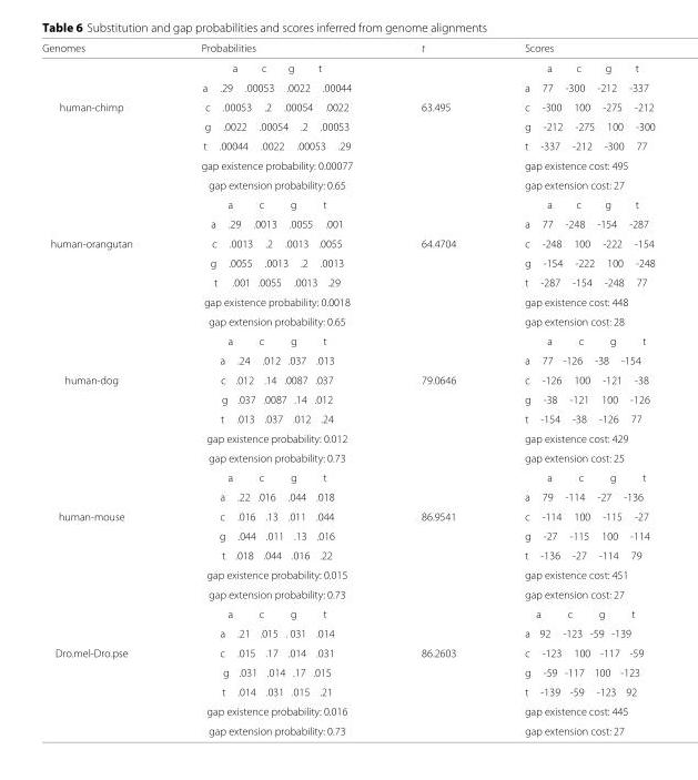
<table><thead><tr><td>Genomes</td><td>Probabilities</td><td>t</td><td>Scores</td></tr></thead><tbody><tr><td></td><td>a c g t</td><td></td><td>a c g t</td></tr><tr><td></td><td>a .29 .00053 .0022 .00044</td><td></td><td>a 77 -300 -212 -337</td></tr><tr><td rowspan="7">human-chimp</td><td>c .00053 .2 .00054 .0022</td><td>63.495</td><td>c -300 100 -275 -212</td></tr><tr><td>g .0022 .00054 .2 .00053</td><td></td><td>g -212 -275 100 -300</td></tr><tr><td>t .00044 .0022 .00053 .29</td><td></td><td>t -337 -212 -300 77</td></tr><tr><td>gap existence probability: 0.00077</td><td></td><td>gap existence cost: 495</td></tr><tr><td>gap extension probability: 0.65</td><td></td><td>gap extension cost: 27</td></tr><tr><td>a c g t</td><td></td><td>a c g t</td></tr><tr><td>a .29 .0013 .0055 .001</td><td></td><td>a 77 -248 -154 -287</td></tr><tr><td rowspan="7">human-orangutan</td><td>c .0013 .2 .0013 .0055</td><td>64.4704</td><td>c -248 100 -222 -154</td></tr><tr><td>g .0055 .0013 .2 .0013</td><td></td><td>g -154 -222 100 -248</td></tr><tr><td>t .001 .0055 .0013 .29</td><td></td><td>t -287 -154 -248 77</td></tr><tr><td>gap existence probability: 0.0018</td><td></td><td>gap existence cost: 448</td></tr><tr><td>gap extension probability: 0.65</td><td></td><td>gap extension cost: 28</td></tr><tr><td>a c g t</td><td></td><td>a c g t</td></tr><tr><td>a .24 .012 .037 .013</td><td></td><td>a 77 -126 -38 -154</td></tr><tr><td rowspan="7">human-dog</td><td>c .012 .14 .0087 .037</td><td>79.0646</td><td>c -126 100 -121 -38</td></tr><tr><td>g .037 .0087 .14 .012</td><td></td><td>g -38 -121 100 -126</td></tr><tr><td>t .013 .037 .012 .24</td><td></td><td>t -154 -38 -126 77</td></tr><tr><td>gap existence probability: 0.012</td><td></td><td>gap existence cost: 429</td></tr><tr><td>gap extension probability: 0.73</td><td></td><td>gap extension cost: 25</td></tr><tr><td>a c g t</td><td></td><td>a c g t</td></tr><tr><td>a .22 .016 .044 .018</td><td></td><td>a 79 -114 -27 -136</td></tr><tr><td rowspan="7">human-mouse</td><td>c .016 .13 .011 .044</td><td>86.9541</td><td>c -114 100 -115 -27</td></tr><tr><td>g .044 .011 .13 .016</td><td></td><td>g -27 -115 100 -114</td></tr><tr><td>t .018 .044 .016 .22</td><td></td><td>t -136 -27 -114 79</td></tr><tr><td>gap existence probability: 0.015</td><td></td><td>gap existence cost: 451</td></tr><tr><td>gap extension probability: 0.73</td><td></td><td>gap extension cost: 27</td></tr><tr><td>a c g t</td><td></td><td>a c g t</td></tr><tr><td>a .21 .015 . 031 .014</td><td></td><td>a 92 -123 -59 -139</td></tr><tr><td rowspan="5">Dro.mel-Dro.pse</td><td>c .015 .17 .014 .031</td><td>86.2603</td><td>c -123 100 -117 -59</td></tr><tr><td>g .031 .014 .17 .015</td><td></td><td>g -59 -117 100 -123</td></tr><tr><td>t .014 .031 .015 .21</td><td></td><td>t -139 -59 -123 92</td></tr><tr><td>gap existence probability: 0.016</td><td></td><td>gap existence cost: 445</td></tr><tr><td>gap extension probability: 0.73</td><td></td><td>gap extension cost: 27</td></tr></tbody></table>